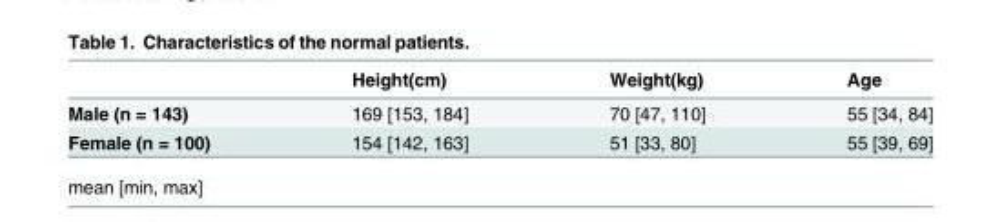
<table><thead><tr><td></td><td>Height(cm)</td><td>Weight(kg)</td><td>Age</td></tr></thead><tbody><tr><td>Male (n = 143)</td><td>169 [153, 184]</td><td>70 [47, 110]</td><td>55 [34, 84]</td></tr><tr><td>Female (n = 100)</td><td>154 [142, 163]</td><td>51 [33, 80]</td><td>55 [39, 69]</td></tr></tbody></table>